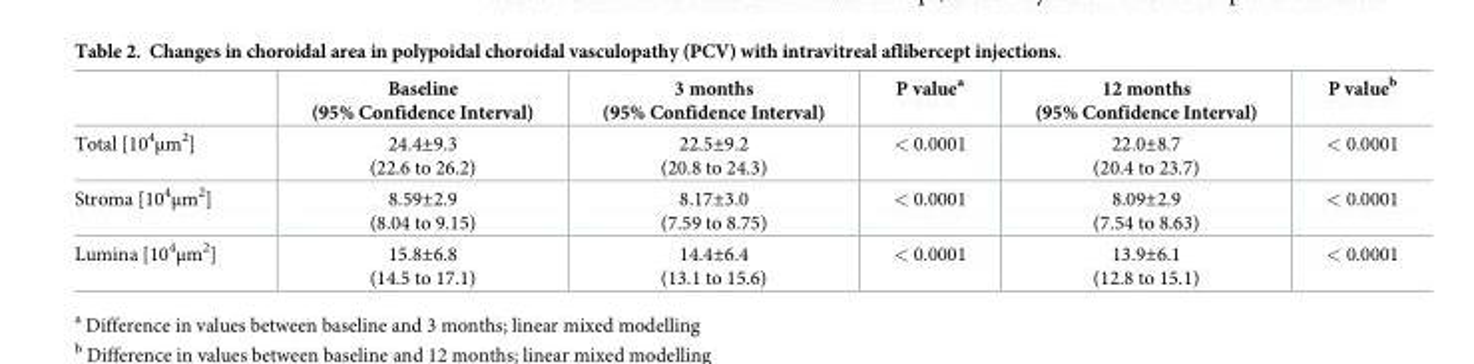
<table><thead><tr><td></td><td>Baseline (95% Confidence Interval)</td><td>3 months (95% Confidence Interval)</td><td>P value<sup>a</sup></td><td>12 months (95% Confidence Interval)</td><td>P value<sup>b</sup></td></tr></thead><tbody><tr><td>Total [10<sup>4</sup>μm<sup>2</sup>]</td><td>24.4±9.3 (22.6 to 26.2)</td><td>22.5±9.2 (20.8 to 24.3)</td><td>&lt; 0.0001</td><td>22.0±8.7 (20.4 to 23.7)</td><td>&lt; 0.0001</td></tr><tr><td>Stroma [10<sup>4</sup>μm<sup>2</sup>]</td><td>8.59±2.9 (8.04 to 9.15)</td><td>8.17±3.0 (7.59 to 8.75)</td><td>&lt; 0.0001</td><td>8.09±2.9 (7.54 to 8.63)</td><td>&lt; 0.0001</td></tr><tr><td>Lumina [10<sup>4</sup>μm<sup>2</sup>]</td><td>15.8±6.8 (14.5 to 17.1)</td><td>14.4±6.4 (13.1 to 15.6)</td><td>&lt; 0.0001</td><td>13.9±6.1 (12.8 to 15.1)</td><td>&lt; 0.0001</td></tr></tbody></table>